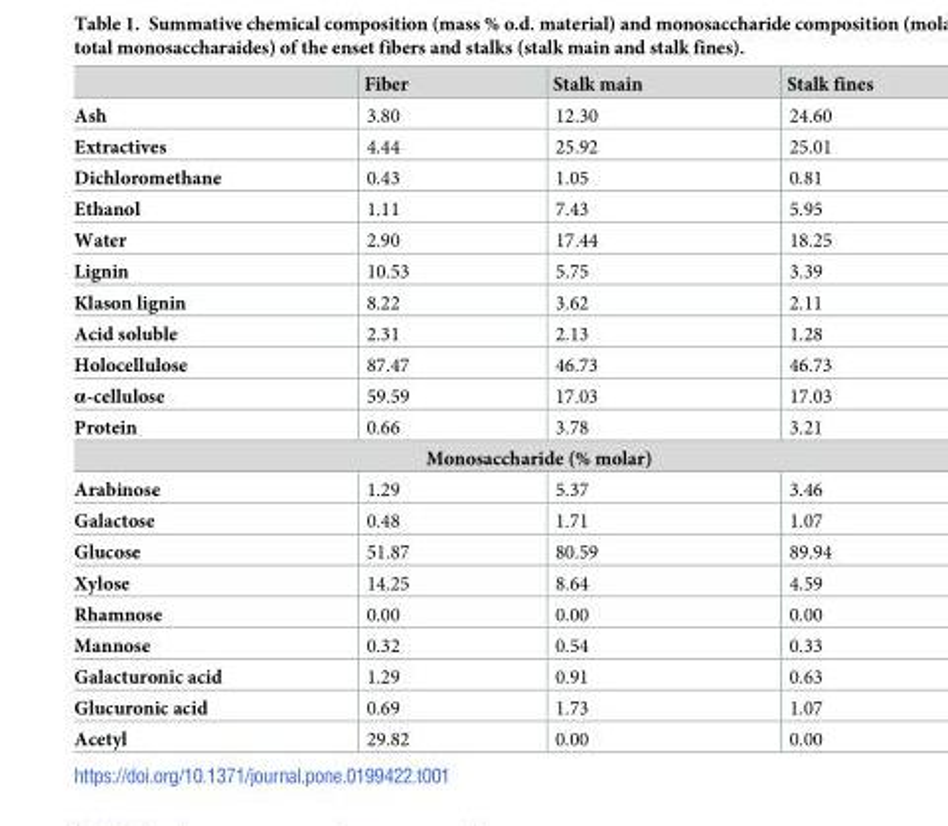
<table><thead><tr><td></td><td>Fiber</td><td>Stalk main</td><td>Stalk fines</td></tr></thead><tbody><tr><td>Ash</td><td>3.80</td><td>12.30</td><td>24.60</td></tr><tr><td>Extractives</td><td>4.44</td><td>25.92</td><td>25.01</td></tr><tr><td>Dichloromethane</td><td>0.43</td><td>1.05</td><td>0.81</td></tr><tr><td>Ethanol</td><td>1.11</td><td>7.43</td><td>5.95</td></tr><tr><td>Water</td><td>2.90</td><td>17.44</td><td>18.25</td></tr><tr><td>Lignin</td><td>10.53</td><td>5.75</td><td>3.39</td></tr><tr><td>Klason lignin</td><td>8.22</td><td>3.62</td><td>2.11</td></tr><tr><td>Acid soluble</td><td>2.31</td><td>2.13</td><td>1.28</td></tr><tr><td>Holocellulose</td><td>87.47</td><td>46.73</td><td>46.73</td></tr><tr><td>α-cellulose</td><td>59.59</td><td>17.03</td><td>17.03</td></tr><tr><td>Protein</td><td>0.66</td><td>3.78</td><td>3.21</td></tr><tr><td colspan="4">Monosaccharide (% molar)</td></tr><tr><td>Arabinose</td><td>1.29</td><td>5.37</td><td>3.46</td></tr><tr><td>Galactose</td><td>0.48</td><td>1.71</td><td>1.07</td></tr><tr><td>Glucose</td><td>51.87</td><td>80.59</td><td>89.94</td></tr><tr><td>Xylose</td><td>14.25</td><td>8.64</td><td>4.59</td></tr><tr><td>Rhamnose</td><td>0.00</td><td>0.00</td><td>0.00</td></tr><tr><td>Mannose</td><td>0.32</td><td>0.54</td><td>0.33</td></tr><tr><td>Galacturonic acid</td><td>1.29</td><td>0.91</td><td>0.63</td></tr><tr><td>Glucuronic acid</td><td>0.69</td><td>1.73</td><td>1.07</td></tr><tr><td>Acetyl</td><td>29.82</td><td>0.00</td><td>0.00</td></tr></tbody></table>